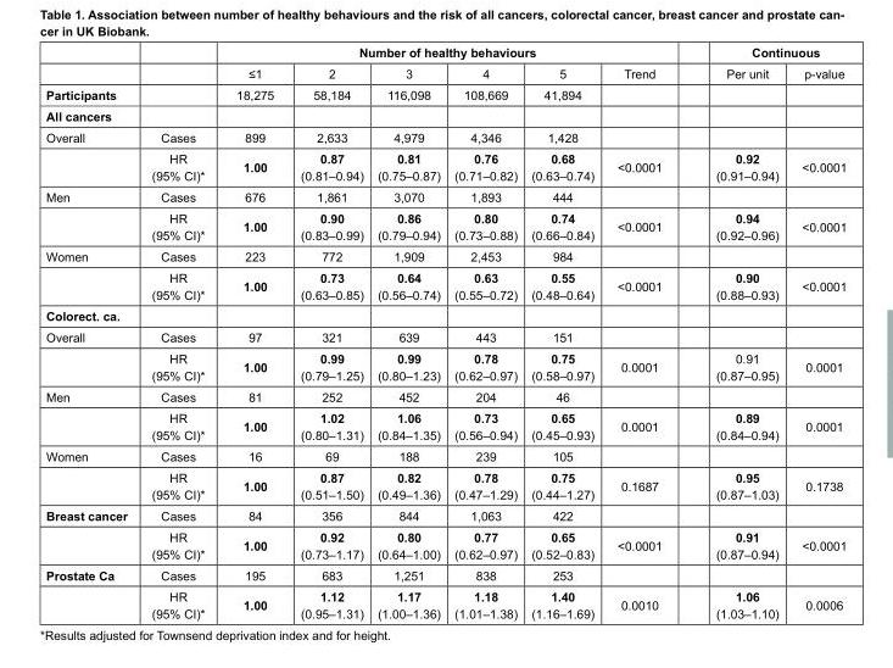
<table><thead><tr><td rowspan="2"></td><td rowspan="2"></td><td colspan="6">Number of healthy behaviours</td><td colspan="2">Continuous</td></tr><tr><td>≤1</td><td>2</td><td>3</td><td>4</td><td>5</td><td>Trend</td><td>Per unit</td><td>p-value</td></tr></thead><tbody><tr><td>Participants</td><td></td><td>18,275</td><td>58,184</td><td>116,098</td><td>108,669</td><td>41,894</td><td></td><td></td><td></td></tr><tr><td colspan="10">All cancers</td></tr><tr><td rowspan="2">Overall</td><td>Cases</td><td>899</td><td>2,633</td><td>4,979</td><td>4,346</td><td>1,428</td><td></td><td></td><td></td></tr><tr><td>HR (95% CI)*</td><td>1.00</td><td>0.87 (0.81–0.94)</td><td>0.81 (0.75–0.87)</td><td>0.76 (0.71–0.82)</td><td>0.68 (0.63–0.74)</td><td>&lt;0.0001</td><td>0.92 (0.91–0.94)</td><td>&lt;0.0001</td></tr><tr><td rowspan="2">Men</td><td>Cases</td><td>676</td><td>1,861</td><td>3,070</td><td>1,893</td><td>444</td><td></td><td></td><td></td></tr><tr><td>HR (95% CI)*</td><td>1.00</td><td>0.90 (0.83–0.99)</td><td>0.86 (0.79–0.94)</td><td>0.80 (0.73–0.88)</td><td>0.74 (0.66–0.84)</td><td>&lt;0.0001</td><td>0.94 (0.92–0.96)</td><td>&lt;0.0001</td></tr><tr><td rowspan="2">Women</td><td>Cases</td><td>223</td><td>772</td><td>1,909</td><td>2,453</td><td>984</td><td></td><td></td><td></td></tr><tr><td>HR (95% CI)*</td><td>1.00</td><td>0.73 (0.63–0.85)</td><td>0.64 (0.56–0.74)</td><td>0.63 (0.55–0.72)</td><td>0.55 (0.48–0.64)</td><td>&lt;0.0001</td><td>0.90 (0.88–0.93)</td><td>&lt;0.0001</td></tr><tr><td colspan="10">Colorect. ca.</td></tr><tr><td rowspan="2">Overall</td><td>Cases</td><td>97</td><td>321</td><td>639</td><td>443</td><td>151</td><td></td><td></td><td></td></tr><tr><td>HR (95% CI)*</td><td>1.00</td><td>0.99 (0.79–1.25)</td><td>0.99 (0.80–1.23)</td><td>0.78 (0.62–0.97)</td><td>0.75 (0.58–0.97)</td><td>0.0001</td><td>0.91 (0.87–0.95)</td><td>0.0001</td></tr><tr><td rowspan="2">Men</td><td>Cases</td><td>81</td><td>252</td><td>452</td><td>204</td><td>46</td><td></td><td></td><td></td></tr><tr><td>HR (95% CI)*</td><td>1.00</td><td>1.02 (0.80–1.31)</td><td>1.06 (0.84–1.35)</td><td>0.73 (0.56–0.94)</td><td>0.65 (0.45–0.93)</td><td>0.0001</td><td>0.89 (0.84–0.94)</td><td>0.0001</td></tr><tr><td rowspan="2">Women</td><td>Cases</td><td>16</td><td>69</td><td>188</td><td>239</td><td>105</td><td></td><td></td><td></td></tr><tr><td>HR (95% CI)*</td><td>1.00</td><td>0.87 (0.51–1.50)</td><td>0.82 (0.49–1.36)</td><td>0.78 (0.47–1.29)</td><td>0.75 (0.44–1.27)</td><td>0.1687</td><td>0.95 (0.87–1.03)</td><td>0.1738</td></tr><tr><td rowspan="2">Breast cancer</td><td>Cases</td><td>84</td><td>356</td><td>844</td><td>1,063</td><td>422</td><td></td><td></td><td></td></tr><tr><td>HR (95% CI)*</td><td>1.00</td><td>0.92 (0.73–1.17)</td><td>0.80 (0.64–1.00)</td><td>0.77 (0.62–0.97)</td><td>0.65 (0.52–0.83)</td><td>&lt;0.0001</td><td>0.91 (0.87–0.94)</td><td>&lt;0.0001</td></tr><tr><td rowspan="2">Prostate Ca</td><td>Cases</td><td>195</td><td>683</td><td>1,251</td><td>838</td><td>253</td><td></td><td></td><td></td></tr><tr><td>HR (95% CI)*</td><td>1.00</td><td>1.12 (0.95–1.31)</td><td>1.17 (1.00–1.36)</td><td>1.18 (1.01–1.38)</td><td>1.40 (1.16–1.69)</td><td>0.0010</td><td>1.06 (1.03–1.10)</td><td>0.0006</td></tr></tbody></table>